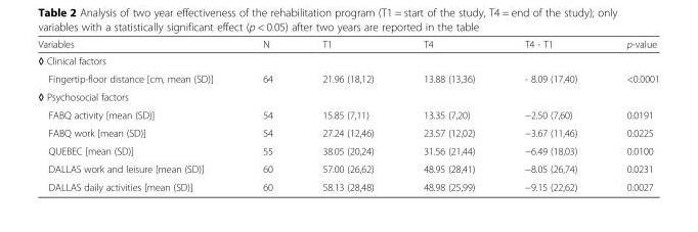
<table><thead><tr><td>Variables</td><td>N</td><td>T1</td><td>T4</td><td>T4 - T1</td><td>p-value</td></tr></thead><tbody><tr><td colspan="6">◊ Clinical factors</td></tr><tr><td>Fingertip-floor distance [cm, mean (SD)]</td><td>64</td><td>21.96 (18,12)</td><td>13.88 (13,36)</td><td>- 8.09 (17,40)</td><td>&lt;0.0001</td></tr><tr><td colspan="6">◊ Psychosocial factors</td></tr><tr><td>FABQ activity [mean (SD)]</td><td>54</td><td>15.85 (7,11)</td><td>13.35 (7,20)</td><td>−2.50 (7,60)</td><td>0.0191</td></tr><tr><td>FABQ work [mean (SD)]</td><td>54</td><td>27.24 (12,46)</td><td>23.57 (12,02)</td><td>−3.67 (11,46)</td><td>0.0225</td></tr><tr><td>QUEBEC [mean (SD)]</td><td>55</td><td>38.05 (20,24)</td><td>31.56 (21,44)</td><td>−6.49 (18,03)</td><td>0.0100</td></tr><tr><td>DALLAS work and leisure [mean (SD)]</td><td>60</td><td>57.00 (26,62)</td><td>48.95 (28,41)</td><td>−8.05 (26,74)</td><td>0.0231</td></tr><tr><td>DALLAS daily activities [mean (SD)]</td><td>60</td><td>58.13 (28,48)</td><td>48.98 (25,99)</td><td>−9.15 (22,62)</td><td>0.0027</td></tr></tbody></table>